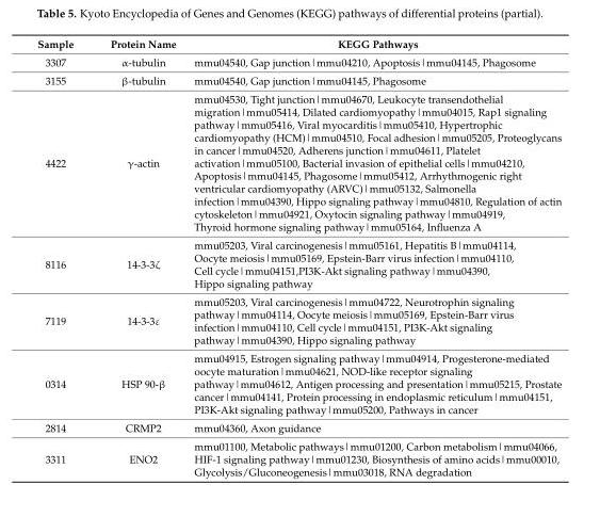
<table><thead><tr><td>Sample</td><td>Protein Name</td><td>KEGG Pathways</td></tr></thead><tbody><tr><td>3307</td><td>α-tubulin</td><td>mmu04540, Gap junction|mmu04210, Apoptosis|mmu04145, Phagosome</td></tr><tr><td>3155</td><td>β-tubulin</td><td>mmu04540, Gap junction|mmu04145, Phagosome</td></tr><tr><td>4422</td><td>γ-actin</td><td>mmu04530, Tight junction|mmu04670, Leukocyte transendothelial migration|mmu05414, Dilated cardiomyopathy|mmu04015, Rap1 signaling pathway|mmu05416, Viral myocarditis|mmu05410, Hypertrophic cardiomyopathy (HCM)|mmu04510, Focal adhesion|mmu05205, Proteoglycans in cancer|mmu04520, Adherens junction|mmu04611, Platelet activation|mmu05100, Bacterial invasion of epithelial cells|mmu04210, Apoptosis|mmu04145, Phagosome|mmu05412, Arrhythmogenic right ventricular cardiomyopathy (ARVC)|mmu05132, Salmonella infection|mmu04390, Hippo signaling pathway|mmu04810, Regulation of actin cytoskeleton|mmu04921, Oxytocin signaling pathway|mmu04919, Thyroid hormone signaling pathway|mmu05164, Influenza A</td></tr><tr><td>8116</td><td>14-3-3ζ</td><td>mmu05203, Viral carcinogenesis|mmu05161, Hepatitis B|mmu04114, Oocyte meiosis|mmu05169, Epstein-Barr virus infection|mmu04110, Cell cycle|mmu04151,PI3K-Akt signaling pathway|mmu04390, Hippo signaling pathway</td></tr><tr><td>7119</td><td>14-3-3ε</td><td>mmu05203, Viral carcinogenesis|mmu04722, Neurotrophin signaling pathway|mmu04114, Oocyte meiosis|mmu05169, Epstein-Barr virus infection|mmu04110, Cell cycle|mmu04151, PI3K-Akt signaling pathway|mmu04390, Hippo signaling pathway</td></tr><tr><td>0314</td><td>HSP 90-β</td><td>mmu04915, Estrogen signaling pathway|mmu04914, Progesterone-mediated oocyte maturation|mmu04621, NOD-like receptor signaling pathway|mmu04612, Antigen processing and presentation|mmu05215, Prostate cancer|mmu04141, Protein processing in endoplasmic reticulum|mmu04151, PI3K-Akt signaling pathway|mmu05200, Pathways in cancer</td></tr><tr><td>2814</td><td>CRMP2</td><td>mmu04360, Axon guidance</td></tr><tr><td>3311</td><td>ENO2</td><td>mmu01100, Metabolic pathways|mmu01200, Carbon metabolism|mmu04066, HIF-1 signaling pathway|mmu01230, Biosynthesis of amino acids|mmu00010, Glycolysis/Gluconeogenesis|mmu03018, RNA degradation</td></tr></tbody></table>